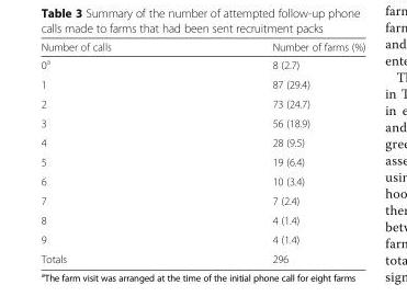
<table><thead><tr><td>Number of calls</td><td>Number of farms (%)</td></tr></thead><tbody><tr><td>0<sup>a</sup></td><td>8 (2.7)</td></tr><tr><td>1</td><td>87 (29.4)</td></tr><tr><td>2</td><td>73 (24.7)</td></tr><tr><td>3</td><td>56 (18.9)</td></tr><tr><td>4</td><td>28 (9.5)</td></tr><tr><td>5</td><td>19 (6.4)</td></tr><tr><td>6</td><td>10 (3.4)</td></tr><tr><td>7</td><td>7 (2.4)</td></tr><tr><td>8</td><td>4 (1.4)</td></tr><tr><td>9</td><td>4 (1.4)</td></tr><tr><td>Totals</td><td>296</td></tr></tbody></table>